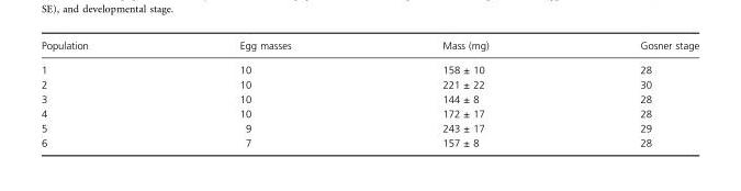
<table><thead><tr><td>Population</td><td>Egg masses</td><td>Mass (mg)</td><td>Gosner stage</td></tr></thead><tbody><tr><td>1</td><td>10</td><td>158 ± 10</td><td>28</td></tr><tr><td>2</td><td>10</td><td>221 ± 22</td><td>30</td></tr><tr><td>3</td><td>10</td><td>144 ± 8</td><td>28</td></tr><tr><td>4</td><td>10</td><td>172 ± 17</td><td>28</td></tr><tr><td>5</td><td>9</td><td>243 ± 17</td><td>29</td></tr><tr><td>6</td><td>7</td><td>157 ± 8</td><td>28</td></tr></tbody></table>